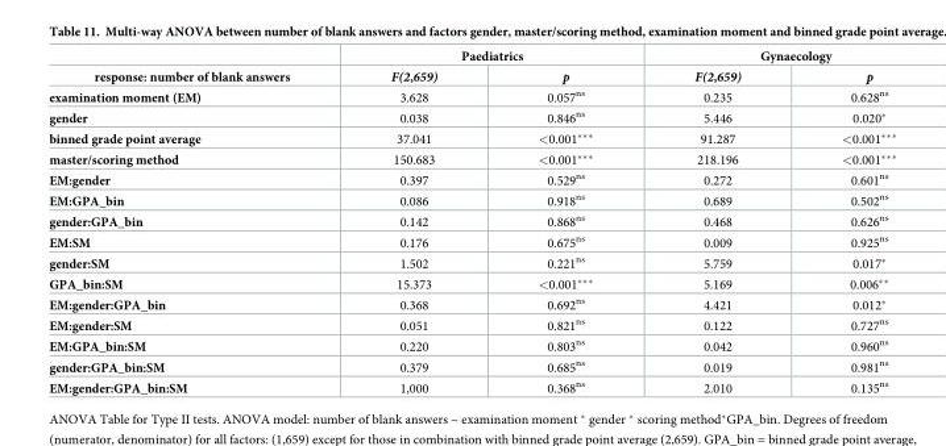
<table><thead><tr><td rowspan="2">response: number of blank answers</td><td colspan="2">Paediatrics</td><td colspan="2">Gynaecology</td></tr><tr><td>F(2,659)</td><td>p</td><td>F(2,659)</td><td>p</td></tr></thead><tbody><tr><td>examination moment (EM)</td><td>3.628</td><td>0.057<sup>ns</sup></td><td>0.235</td><td>0.628<sup>ns</sup></td></tr><tr><td>gender</td><td>0.038</td><td>0.846<sup>ns</sup></td><td>5.446</td><td>0.020*</td></tr><tr><td>binned grade point average</td><td>37.041</td><td>&lt;0.001***</td><td>91.287</td><td>&lt;0.001***</td></tr><tr><td>master/scoring method</td><td>150.683</td><td>&lt;0.001***</td><td>218.196</td><td>&lt;0.001***</td></tr><tr><td>EM:gender</td><td>0.397</td><td>0.529<sup>ns</sup></td><td>0.272</td><td>0.601<sup>ns</sup></td></tr><tr><td>EM:GPA_bin</td><td>0.086</td><td>0.918<sup>ns</sup></td><td>0.689</td><td>0.502<sup>ns</sup></td></tr><tr><td>gender:GPA_bin</td><td>0.142</td><td>0.868<sup>ns</sup></td><td>0.468</td><td>0.626<sup>ns</sup></td></tr><tr><td>EM:SM</td><td>0.176</td><td>0.675<sup>ns</sup></td><td>0.009</td><td>0.925<sup>ns</sup></td></tr><tr><td>gender:SM</td><td>1.502</td><td>0.221<sup>ns</sup></td><td>5.759</td><td>0.017*</td></tr><tr><td>GPA_bin:SM</td><td>15.373</td><td>&lt;0.001***</td><td>5.169</td><td>0.006**</td></tr><tr><td>EM:gender:GPA_bin</td><td>0.368</td><td>0.692<sup>ns</sup></td><td>4.421</td><td>0.012*</td></tr><tr><td>EM:gender:SM</td><td>0.051</td><td>0.821<sup>ns</sup></td><td>0.122</td><td>0.727<sup>ns</sup></td></tr><tr><td>EM:GPA_bin:SM</td><td>0.220</td><td>0.803<sup>ns</sup></td><td>0.042</td><td>0.960<sup>ns</sup></td></tr><tr><td>gender:GPA_bin:SM</td><td>0.379</td><td>0.685<sup>ns</sup></td><td>0.019</td><td>0.981<sup>ns</sup></td></tr><tr><td>EM:gender:GPA_bin:SM</td><td>1,000</td><td>0.368<sup>ns</sup></td><td>2.010</td><td>0.135<sup>ns</sup></td></tr></tbody></table>